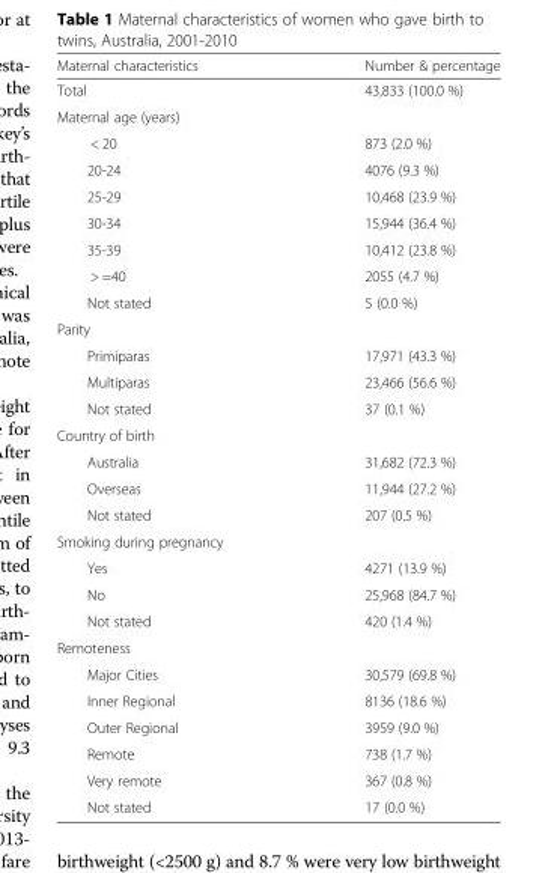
<table><thead><tr><td>Maternal characteristics</td><td>Number &amp; percentage</td></tr></thead><tbody><tr><td>Total</td><td>43,833 (100.0 %)</td></tr><tr><td colspan="2">Maternal age (years)</td></tr><tr><td>&lt; 20</td><td>873 (2.0 %)</td></tr><tr><td>20-24</td><td>4076 (9.3 %)</td></tr><tr><td>25-29</td><td>10,468 (23.9 %)</td></tr><tr><td>30-34</td><td>15,944 (36.4 %)</td></tr><tr><td>35-39</td><td>10,412 (23.8 %)</td></tr><tr><td>&gt; =40</td><td>2055 (4.7 %)</td></tr><tr><td>Not stated</td><td>5 (0.0 %)</td></tr><tr><td colspan="2">Parity</td></tr><tr><td>Primiparas</td><td>17,971 (43.3 %)</td></tr><tr><td>Multiparas</td><td>23,466 (56.6 %)</td></tr><tr><td>Not stated</td><td>37 (0.1 %)</td></tr><tr><td colspan="2">Country of birth</td></tr><tr><td>Australia</td><td>31,682 (72.3 %)</td></tr><tr><td>Overseas</td><td>11,944 (27.2 %)</td></tr><tr><td>Not stated</td><td>207 (0.5 %)</td></tr><tr><td colspan="2">Smoking during pregnancy</td></tr><tr><td>Yes</td><td>4271 (13.9 %)</td></tr><tr><td>No</td><td>25,968 (84.7 %)</td></tr><tr><td>Not stated</td><td>420 (1.4 %)</td></tr><tr><td colspan="2">Remoteness</td></tr><tr><td>Major Cities</td><td>30,579 (69.8 %)</td></tr><tr><td>Inner Regional</td><td>8136 (18.6 %)</td></tr><tr><td>Outer Regional</td><td>3959 (9.0 %)</td></tr><tr><td>Remote</td><td>738 (1.7 %)</td></tr><tr><td>Very remote</td><td>367 (0.8 %)</td></tr><tr><td>Not stated</td><td>17 (0.0 %)</td></tr></tbody></table>